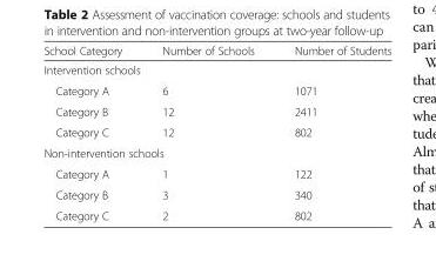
<table><thead><tr><td>School Category</td><td>Number of Schools</td><td>Number of Students</td></tr></thead><tbody><tr><td colspan="3">Intervention schools</td></tr><tr><td>Category A</td><td>6</td><td>1071</td></tr><tr><td>Category B</td><td>12</td><td>2411</td></tr><tr><td>Category C</td><td>12</td><td>802</td></tr><tr><td colspan="3">Non-intervention schools</td></tr><tr><td>Category A</td><td>1</td><td>122</td></tr><tr><td>Category B</td><td>3</td><td>340</td></tr><tr><td>Category C</td><td>2</td><td>802</td></tr></tbody></table>